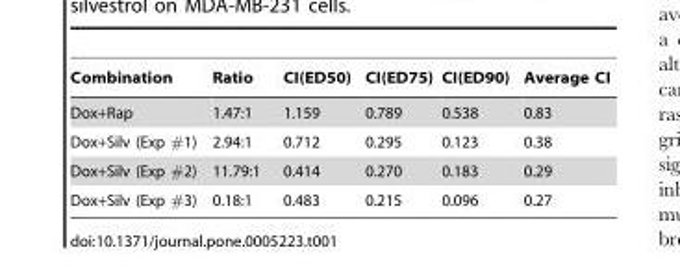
<table><thead><tr><td>Combination</td><td>Ratio</td><td>CI(ED50)</td><td>CI(ED75)</td><td>CI(ED90)</td><td>Average CI</td></tr></thead><tbody><tr><td>Dox+Rap</td><td>1.47:1</td><td>1.159</td><td>0.789</td><td>0.538</td><td>0.83</td></tr><tr><td>Dox+Silv (Exp #1)</td><td>2.94:1</td><td>0.712</td><td>0.295</td><td>0.123</td><td>0.38</td></tr><tr><td>Dox+Silv (Exp #2)</td><td>11.79:1</td><td>0.414</td><td>0.270</td><td>0.183</td><td>0.29</td></tr><tr><td>Dox+Silv (Exp #3)</td><td>0.18:1</td><td>0.483</td><td>0.215</td><td>0.096</td><td>0.27</td></tr></tbody></table>